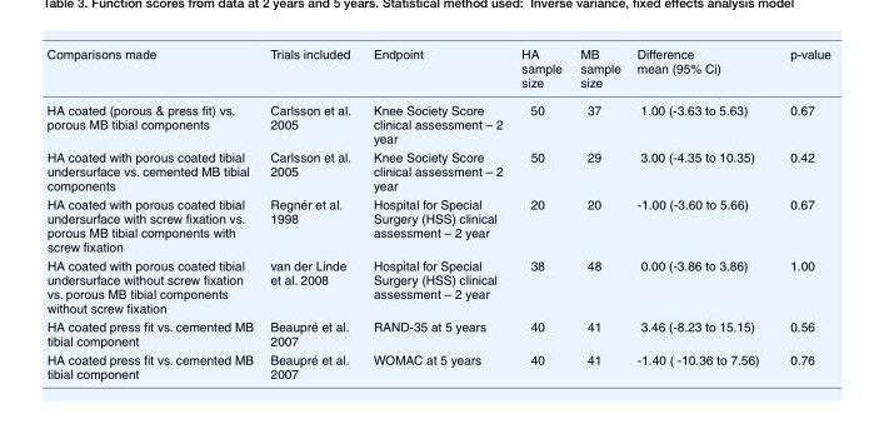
<table><thead><tr><td>Comparisons made</td><td>Trials included</td><td>Endpoint</td><td>HA sample size</td><td>MB sample size</td><td>Difference mean (95% Ci)</td><td>p-value</td></tr></thead><tbody><tr><td>HA coated (porous &amp; press fit) vs. porous MB tibial components</td><td>Carlsson et al. 2005</td><td>Knee Society Score clinical assessment – 2 year</td><td>50</td><td>37</td><td>1.00 (-3.63 to 5.63)</td><td>0.67</td></tr><tr><td>HA coated with porous coated tibial undersurface vs. cemented MB tibial components</td><td>Carlsson et al. 2005</td><td>Knee Society Score clinical assessment – 2 year</td><td>50</td><td>29</td><td>3.00 (-4.35 to 10.35)</td><td>0.42</td></tr><tr><td>HA coated with porous coated tibial undersurface with screw fixation vs. porous MB tibial components with screw fixation</td><td>Regnér et al. 1998</td><td>Hospital for Special Surgery (HSS) clinical assessment – 2 year</td><td>20</td><td>20</td><td>-1.00 (-3.60 to 5.66)</td><td>0.67</td></tr><tr><td>HA coated with porous coated tibial undersurface without screw fixation vs. porous MB tibial components without screw fixation</td><td>van der Linde et al. 2008</td><td>Hospital for Special Surgery (HSS) clinical assessment – 2 year</td><td>38</td><td>48</td><td>0.00 (-3.86 to 3.86)</td><td>1.00</td></tr><tr><td>HA coated press fit vs. cemented MB tibial component</td><td>Beaupré et al. 2007</td><td>RAND-35 at 5 years</td><td>40</td><td>41</td><td>3.46 (-8.23 to 15.15)</td><td>0.56</td></tr><tr><td>HA coated press fit vs. cemented MB tibial component</td><td>Beaupré et al. 2007</td><td>WOMAC at 5 years</td><td>40</td><td>41</td><td>-1.40 ( -10.36 to 7.56)</td><td>0.76</td></tr></tbody></table>